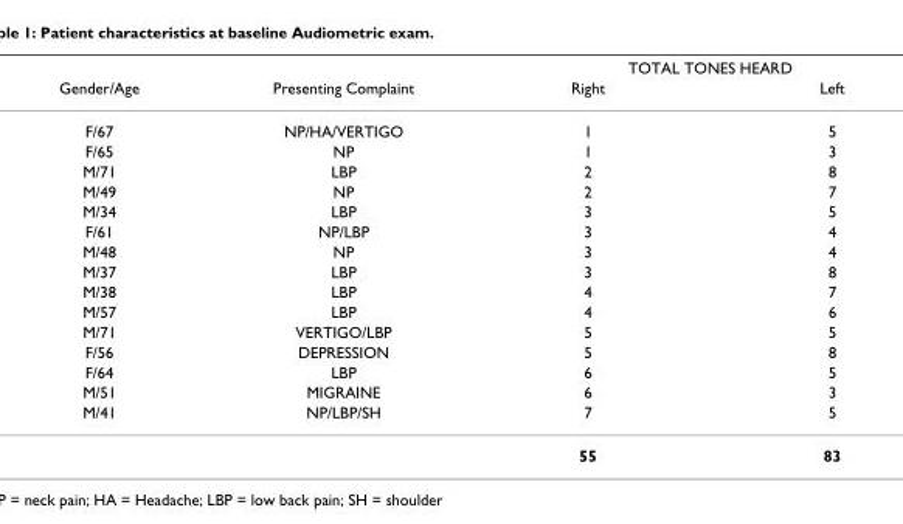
<table><thead><tr><td rowspan="2">Gender/Age</td><td rowspan="2">Presenting Complaint</td><td colspan="2">TOTAL TONES HEARD</td></tr><tr><td>Right</td><td>Left</td></tr></thead><tbody><tr><td>F/67</td><td>NP/HA/VERTIGO</td><td>1</td><td>5</td></tr><tr><td>F/65</td><td>NP</td><td>1</td><td>3</td></tr><tr><td>M/71</td><td>LBP</td><td>2</td><td>8</td></tr><tr><td>M/49</td><td>NP</td><td>2</td><td>7</td></tr><tr><td>M/34</td><td>LBP</td><td>3</td><td>5</td></tr><tr><td>F/61</td><td>NP/LBP</td><td>3</td><td>4</td></tr><tr><td>M/48</td><td>NP</td><td>3</td><td>4</td></tr><tr><td>M/37</td><td>LBP</td><td>3</td><td>8</td></tr><tr><td>M/38</td><td>LBP</td><td>4</td><td>7</td></tr><tr><td>M/57</td><td>LBP</td><td>4</td><td>6</td></tr><tr><td>M/71</td><td>VERTIGO/LBP</td><td>5</td><td>5</td></tr><tr><td>F/56</td><td>DEPRESSION</td><td>5</td><td>8</td></tr><tr><td>F/64</td><td>LBP</td><td>6</td><td>5</td></tr><tr><td>M/51</td><td>MIGRAINE</td><td>6</td><td>3</td></tr><tr><td rowspan="2">M/41</td><td>NP/LBP/SH</td><td>7</td><td>5</td></tr><tr><td></td><td>55</td><td>83</td></tr></tbody></table>